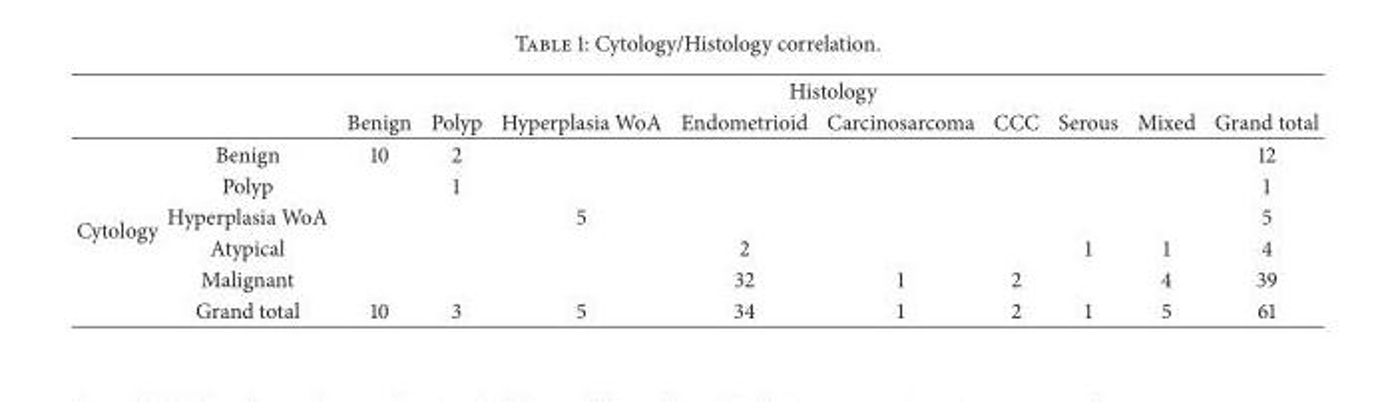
<table><thead><tr><td rowspan="2"></td><td rowspan="2"></td><td colspan="9">Histology</td></tr><tr><td>Benign</td><td>Polyp</td><td>Hyperplasia WoA</td><td>Endometrioid</td><td>Carcinosarcoma</td><td>CCC</td><td>Serous</td><td>Mixed</td><td>Grand total</td></tr></thead><tbody><tr><td rowspan="6">Cytology</td><td>Benign</td><td>10</td><td>2</td><td></td><td></td><td></td><td></td><td></td><td></td><td>12</td></tr><tr><td>Polyp</td><td></td><td>1</td><td></td><td></td><td></td><td></td><td></td><td></td><td>1</td></tr><tr><td>Hyperplasia WoA</td><td></td><td></td><td>5</td><td></td><td></td><td></td><td></td><td></td><td>5</td></tr><tr><td>Atypical</td><td></td><td></td><td></td><td>2</td><td></td><td></td><td>1</td><td>1</td><td>4</td></tr><tr><td>Malignant</td><td></td><td></td><td></td><td>32</td><td>1</td><td>2</td><td></td><td>4</td><td>39</td></tr><tr><td>Grand total</td><td>10</td><td>3</td><td>5</td><td>34</td><td>1</td><td>2</td><td>1</td><td>5</td><td>61</td></tr></tbody></table>